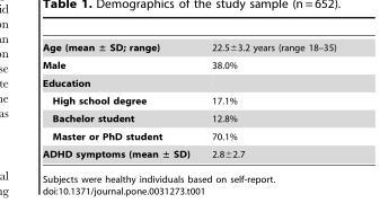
<table><tbody><tr><td>Age (mean ± SD; range)</td><td>22.5±3.2 years (range 18–35)</td></tr><tr><td>Male</td><td>38.0%</td></tr><tr><td colspan="2">Education</td></tr><tr><td>High school degree</td><td>17.1%</td></tr><tr><td>Bachelor student</td><td>12.8%</td></tr><tr><td>Master or PhD student</td><td>70.1%</td></tr><tr><td>ADHD symptoms (mean ± SD)</td><td>2.8±2.7</td></tr></tbody></table>